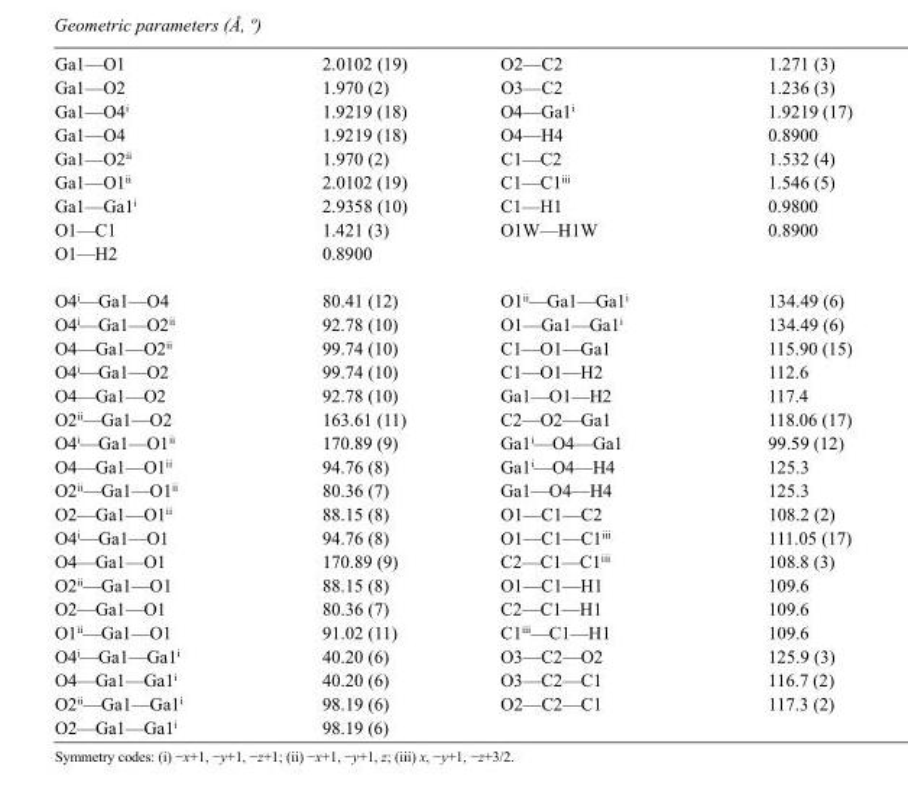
<table><tbody><tr><td>Ga1—O1</td><td>2.0102 (19)</td><td>O2—C2</td><td>1.271 (3)</td></tr><tr><td>Ga1—O2</td><td>1.970 (2)</td><td>O3—C2</td><td>1.236 (3)</td></tr><tr><td>Ga1—O4<sup>i</sup></td><td>1.9219 (18)</td><td>O4—Ga1<sup>i</sup></td><td>1.9219 (17)</td></tr><tr><td>Ga1—O4</td><td>1.9219 (18)</td><td>O4—H4</td><td>0.8900</td></tr><tr><td>Ga1—O2<sup>ii</sup></td><td>1.970 (2)</td><td>C1—C2</td><td>1.532 (4)</td></tr><tr><td>Ga1—O1<sup>ii</sup></td><td>2.0102 (19)</td><td>C1—C1<sup>iii</sup></td><td>1.546 (5)</td></tr><tr><td>Ga1—Ga1<sup>i</sup></td><td>2.9358 (10)</td><td>C1—H1</td><td>0.9800</td></tr><tr><td>O1—C1</td><td>1.421 (3)</td><td>O1W—H1W</td><td>0.8900</td></tr><tr><td>O1—H2</td><td>0.8900</td><td></td><td></td></tr><tr><td>O4<sup>i</sup>—Ga1—O4</td><td>80.41 (12)</td><td>O1<sup>ii</sup>—Ga1—Ga1<sup>i</sup></td><td>134.49 (6)</td></tr><tr><td>O4<sup>i</sup>—Ga1—O2<sup>ii</sup></td><td>92.78 (10)</td><td>O1—Ga1—Ga1<sup>i</sup></td><td>134.49 (6)</td></tr><tr><td>O4—Ga1—O2<sup>ii</sup></td><td>99.74 (10)</td><td>C1—O1—Ga1</td><td>115.90 (15)</td></tr><tr><td>O4<sup>i</sup>—Ga1—O2</td><td>99.74 (10)</td><td>C1—O1—H2</td><td>112.6</td></tr><tr><td>O4—Ga1—O2</td><td>92.78 (10)</td><td>Ga1—O1—H2</td><td>117.4</td></tr><tr><td>O2<sup>ii</sup>—Ga1—O2</td><td>163.61 (11)</td><td>C2—O2—Ga1</td><td>118.06 (17)</td></tr><tr><td>O4<sup>i</sup>—Ga1—O1<sup>ii</sup></td><td>170.89 (9)</td><td>Ga1<sup>i</sup>—O4—Ga1</td><td>99.59 (12)</td></tr><tr><td>O4—Ga1—O1<sup>ii</sup></td><td>94.76 (8)</td><td>Ga1<sup>i</sup>—O4—H4</td><td>125.3</td></tr><tr><td>O2<sup>ii</sup>—Ga1—O1<sup>ii</sup></td><td>80.36 (7)</td><td>Ga1—O4—H4</td><td>125.3</td></tr><tr><td>O2—Ga1—O1<sup>ii</sup></td><td>88.15 (8)</td><td>O1—C1—C2</td><td>108.2 (2)</td></tr><tr><td>O4<sup>i</sup>—Ga1—O1</td><td>94.76 (8)</td><td>O1—C1—C1<sup>iii</sup></td><td>111.05 (17)</td></tr><tr><td>O4—Ga1—O1</td><td>170.89 (9)</td><td>C2—C1—C1<sup>iii</sup></td><td>108.8 (3)</td></tr><tr><td>O2<sup>ii</sup>—Ga1—O1</td><td>88.15 (8)</td><td>O1—C1—H1</td><td>109.6</td></tr><tr><td>O2—Ga1—O1</td><td>80.36 (7)</td><td>C2—C1—H1</td><td>109.6</td></tr><tr><td>O1<sup>ii</sup>—Ga1—O1</td><td>91.02 (11)</td><td>C1<sup>iii</sup>—C1—H1</td><td>109.6</td></tr><tr><td>O4<sup>i</sup>—Ga1—Ga1<sup>i</sup></td><td>40.20 (6)</td><td>O3—C2—O2</td><td>125.9 (3)</td></tr><tr><td>O4—Ga1—Ga1<sup>i</sup></td><td>40.20 (6)</td><td>O3—C2—C1</td><td>116.7 (2)</td></tr><tr><td>O2<sup>ii</sup>—Ga1—Ga1<sup>i</sup></td><td>98.19 (6)</td><td>O2—C2—C1</td><td>117.3 (2)</td></tr><tr><td>O2—Ga1—Ga1<sup>i</sup></td><td>98.19 (6)</td><td></td><td></td></tr></tbody></table>